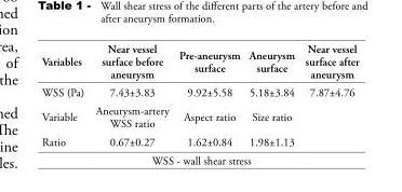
<table><thead><tr><td>Variables</td><td>Near vessel surface before aneurysm</td><td>Pre-aneurysm surface</td><td>Aneurysm surface</td><td>Near vessel surface after aneurysm</td></tr></thead><tbody><tr><td>WSS )Pa(</td><td>7.43±3.83</td><td>9.92±5.58</td><td>5.18±3.84</td><td>7.87±4.76</td></tr><tr><td>Variable</td><td>Aneurysm-artery WSS ratio</td><td>Aspect ratio</td><td>Size ratio</td><td></td></tr><tr><td>Ratio</td><td>0.67±0.27</td><td>1.62±0.84</td><td>1.98±1.13</td><td></td></tr></tbody></table>